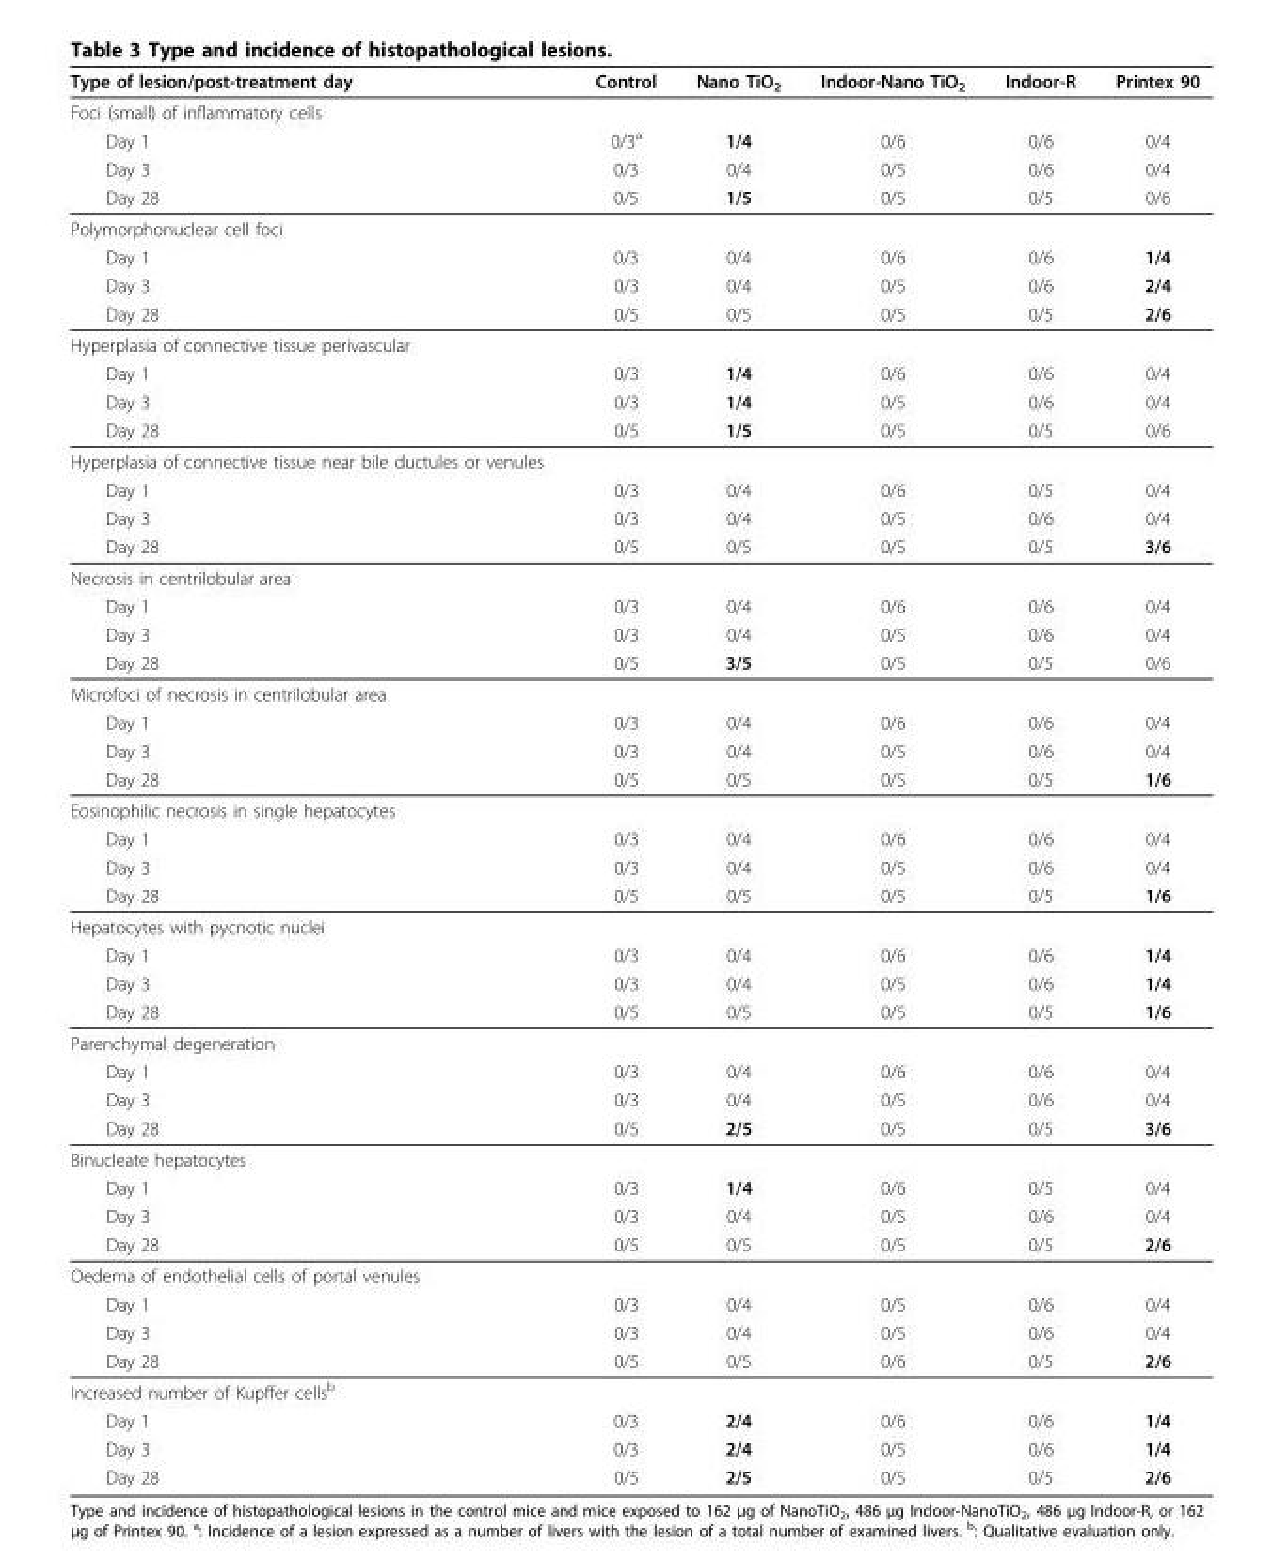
<table><thead><tr><td>Type of lesion/post-treatment day</td><td>Control</td><td>Nano TiO<sub>2</sub></td><td>Indoor-Nano TiO<sub>2</sub></td><td>Indoor-R</td><td>Printex 90</td></tr></thead><tbody><tr><td colspan="6">Foci (small) of inflammatory cells</td></tr><tr><td>Day 1</td><td>0/3<sup>a</sup></td><td>1/4</td><td>0/6</td><td>0/6</td><td>0/4</td></tr><tr><td>Day 3</td><td>0/3</td><td>0/4</td><td>0/5</td><td>0/6</td><td>0/4</td></tr><tr><td>Day 28</td><td>0/5</td><td>1/5</td><td>0/5</td><td>0/5</td><td>0/6</td></tr><tr><td colspan="6">Polymorphonuclear cell foci</td></tr><tr><td>Day 1</td><td>0/3</td><td>0/4</td><td>0/6</td><td>0/6</td><td>1/4</td></tr><tr><td>Day 3</td><td>0/3</td><td>0/4</td><td>0/5</td><td>0/6</td><td>2/4</td></tr><tr><td>Day 28</td><td>0/5</td><td>0/5</td><td>0/5</td><td>0/5</td><td>2/6</td></tr><tr><td colspan="6">Hyperplasia of connective tissue perivascular</td></tr><tr><td>Day 1</td><td>0/3</td><td>1/4</td><td>0/6</td><td>0/6</td><td>0/4</td></tr><tr><td>Day 3</td><td>0/3</td><td>1/4</td><td>0/5</td><td>0/6</td><td>0/4</td></tr><tr><td>Day 28</td><td>0/5</td><td>1/5</td><td>0/5</td><td>0/5</td><td>0/6</td></tr><tr><td colspan="6">Hyperplasia of connective tissue near bile ductules or venules</td></tr><tr><td>Day 1</td><td>0/3</td><td>0/4</td><td>0/6</td><td>0/5</td><td>0/4</td></tr><tr><td>Day 3</td><td>0/3</td><td>0/4</td><td>0/5</td><td>0/6</td><td>0/4</td></tr><tr><td>Day 28</td><td>0/5</td><td>0/5</td><td>0/5</td><td>0/5</td><td>3/6</td></tr><tr><td colspan="6">Necrosis in centrilobular area</td></tr><tr><td>Day 1</td><td>0/3</td><td>0/4</td><td>0/6</td><td>0/6</td><td>0/4</td></tr><tr><td>Day 3</td><td>0/3</td><td>0/4</td><td>0/5</td><td>0/6</td><td>0/4</td></tr><tr><td>Day 28</td><td>0/5</td><td>3/5</td><td>0/5</td><td>0/5</td><td>0/6</td></tr><tr><td colspan="6">Microfoci of necrosis in centrilobular area</td></tr><tr><td>Day 1</td><td>0/3</td><td>0/4</td><td>0/6</td><td>0/6</td><td>0/4</td></tr><tr><td>Day 3</td><td>0/3</td><td>0/4</td><td>0/5</td><td>0/6</td><td>0/4</td></tr><tr><td>Day 28</td><td>0/5</td><td>0/5</td><td>0/5</td><td>0/5</td><td>1/6</td></tr><tr><td colspan="6">Eosinophilic necrosis in single hepatocytes</td></tr><tr><td>Day 1</td><td>0/3</td><td>0/4</td><td>0/6</td><td>0/6</td><td>0/4</td></tr><tr><td>Day 3</td><td>0/3</td><td>0/4</td><td>0/5</td><td>0/6</td><td>0/4</td></tr><tr><td>Day 28</td><td>0/5</td><td>0/5</td><td>0/5</td><td>0/5</td><td>1/6</td></tr><tr><td colspan="6">Hepatocytes with pycnotic nuclei</td></tr><tr><td>Day 1</td><td>0/3</td><td>0/4</td><td>0/6</td><td>0/6</td><td>1/4</td></tr><tr><td>Day 3</td><td>0/3</td><td>0/4</td><td>0/5</td><td>0/6</td><td>1/4</td></tr><tr><td>Day 28</td><td>0/5</td><td>0/5</td><td>0/5</td><td>0/5</td><td>1/6</td></tr><tr><td colspan="6">Parenchymal degeneration</td></tr><tr><td>Day 1</td><td>0/3</td><td>0/4</td><td>0/6</td><td>0/6</td><td>0/4</td></tr><tr><td>Day 3</td><td>0/3</td><td>0/4</td><td>0/5</td><td>0/6</td><td>0/4</td></tr><tr><td>Day 28</td><td>0/5</td><td>2/5</td><td>0/5</td><td>0/5</td><td>3/6</td></tr><tr><td colspan="6">Binucleate hepatocytes</td></tr><tr><td>Day 1</td><td>0/3</td><td>1/4</td><td>0/6</td><td>0/5</td><td>0/4</td></tr><tr><td>Day 3</td><td>0/3</td><td>0/4</td><td>0/5</td><td>0/6</td><td>0/4</td></tr><tr><td>Day 28</td><td>0/5</td><td>0/5</td><td>0/5</td><td>0/5</td><td>2/6</td></tr><tr><td colspan="6">Oedema of endothelial cells of portal venules</td></tr><tr><td>Day 1</td><td>0/3</td><td>0/4</td><td>0/5</td><td>0/6</td><td>0/4</td></tr><tr><td>Day 3</td><td>0/3</td><td>0/4</td><td>0/5</td><td>0/6</td><td>0/4</td></tr><tr><td>Day 28</td><td>0/5</td><td>0/5</td><td>0/6</td><td>0/5</td><td>2/6</td></tr><tr><td colspan="6">Increased number of Kupffer cells<sup>b</sup></td></tr><tr><td>Day 1</td><td>0/3</td><td>2/4</td><td>0/6</td><td>0/6</td><td>1/4</td></tr><tr><td>Day 3</td><td>0/3</td><td>2/4</td><td>0/5</td><td>0/6</td><td>1/4</td></tr><tr><td>Day 28</td><td>0/5</td><td>2/5</td><td>0/5</td><td>0/5</td><td>2/6</td></tr></tbody></table>